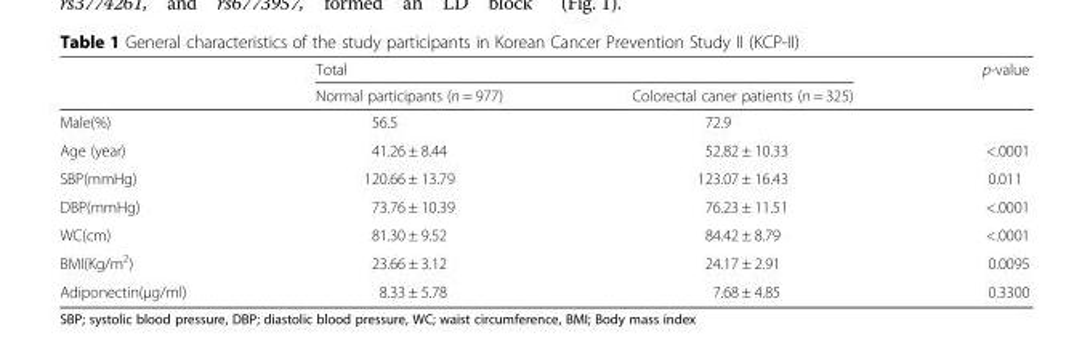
<table><thead><tr><td rowspan="2"></td><td colspan="2">Total</td><td rowspan="2">p-value</td></tr><tr><td>Normal participants (n = 977)</td><td>Colorectal caner patients (n = 325)</td></tr></thead><tbody><tr><td>Male(%)</td><td>56.5</td><td>72.9</td><td></td></tr><tr><td>Age (year)</td><td>41.26 ± 8.44</td><td>52.82 ± 10.33</td><td>&lt;.0001</td></tr><tr><td>SBP(mmHg)</td><td>120.66 ± 13.79</td><td>123.07 ± 16.43</td><td>0.011</td></tr><tr><td>DBP(mmHg)</td><td>73.76 ± 10.39</td><td>76.23 ± 11.51</td><td>&lt;.0001</td></tr><tr><td>WC(cm)</td><td>81.30 ± 9.52</td><td>84.42 ± 8.79</td><td>&lt;.0001</td></tr><tr><td>BMI(Kg/m<sup>2</sup>)</td><td>23.66 ± 3.12</td><td>24.17 ± 2.91</td><td>0.0095</td></tr><tr><td>Adiponectin(μg/ml)</td><td>8.33 ± 5.78</td><td>7.68 ± 4.85</td><td>0.3300</td></tr></tbody></table>